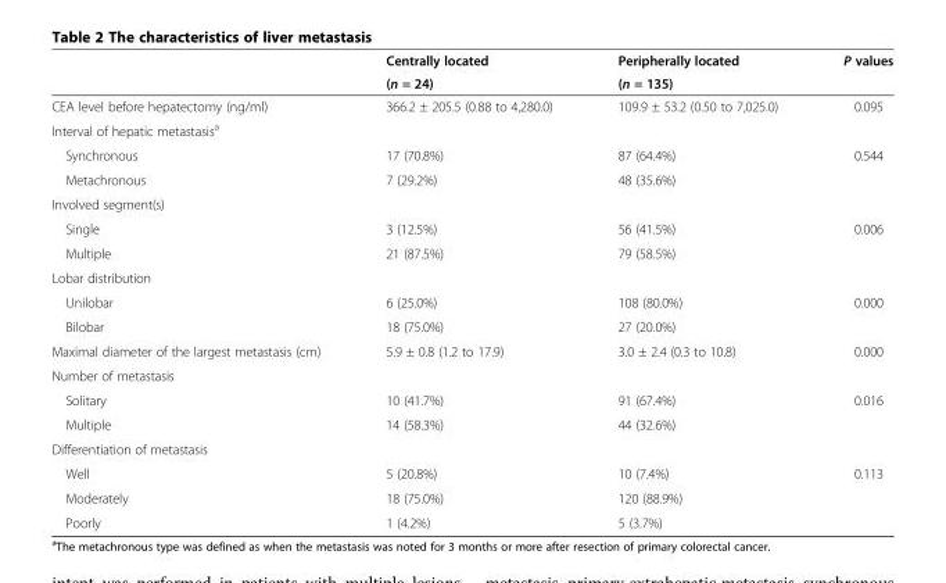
<table><thead><tr><td rowspan="2"></td><td rowspan="2">Centrally located (n = 24)</td><td rowspan="2">Peripherally located (n = 135)</td><td rowspan="2">P values</td></tr><tr></tr></thead><tbody><tr><td>CEA level before hepatectomy (ng/ml)</td><td>366.2 ± 205.5 (0.88 to 4,280.0)</td><td>109.9 ± 53.2 (0.50 to 7,025.0)</td><td>0.095</td></tr><tr><td colspan="4">Interval of hepatic metastasis<sup>a</sup></td></tr><tr><td>Synchronous</td><td>17 (70.8%)</td><td>87 (64.4%)</td><td>0.544</td></tr><tr><td>Metachronous</td><td>7 (29.2%)</td><td>48 (35.6%)</td><td></td></tr><tr><td colspan="4">Involved segment(s)</td></tr><tr><td>Single</td><td>3 (12.5%)</td><td>56 (41.5%)</td><td>0.006</td></tr><tr><td>Multiple</td><td>21 (87.5%)</td><td>79 (58.5%)</td><td></td></tr><tr><td colspan="4">Lobar distribution</td></tr><tr><td>Unilobar</td><td>6 (25.0%)</td><td>108 (80.0%)</td><td>0.000</td></tr><tr><td>Bilobar</td><td>18 (75.0%)</td><td>27 (20.0%)</td><td></td></tr><tr><td>Maximal diameter of the largest metastasis (cm)</td><td>5.9 ± 0.8 (1.2 to 17.9)</td><td>3.0 ± 2.4 (0.3 to 10.8)</td><td>0.000</td></tr><tr><td colspan="4">Number of metastasis</td></tr><tr><td>Solitary</td><td>10 (41.7%)</td><td>91 (67.4%)</td><td>0.016</td></tr><tr><td>Multiple</td><td>14 (58.3%)</td><td>44 (32.6%)</td><td></td></tr><tr><td colspan="4">Differentiation of metastasis</td></tr><tr><td>Well</td><td>5 (20.8%)</td><td>10 (7.4%)</td><td>0.113</td></tr><tr><td>Moderately</td><td>18 (75.0%)</td><td>120 (88.9%)</td><td></td></tr><tr><td>Poorly</td><td>1 (4.2%)</td><td>5 (3.7%)</td><td></td></tr></tbody></table>